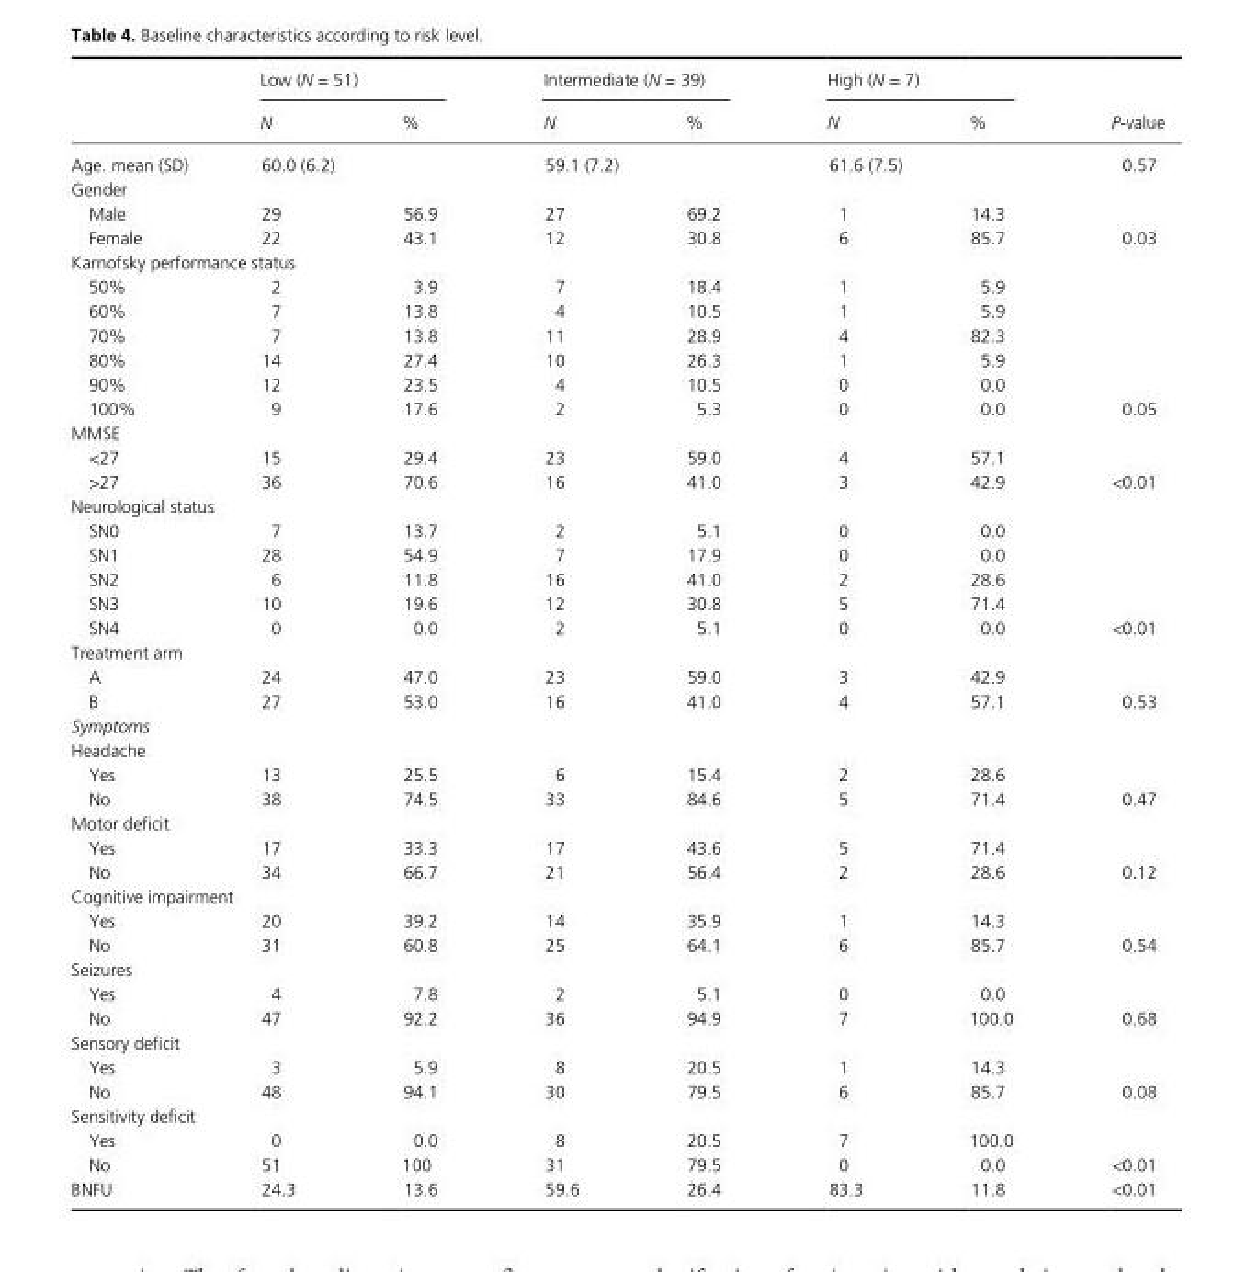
<table><thead><tr><td rowspan="2"></td><td rowspan="2">Low (N = 51) N</td><td rowspan="2">%</td><td colspan="2">Intermediate (N = 39)</td><td rowspan="2">High (N = 7) N</td><td rowspan="2">%</td><td rowspan="2">P- value</td></tr><tr><td>N</td><td>%</td></tr></thead><tbody><tr><td>Age. mean (SD)</td><td>60.0 (6.2)</td><td></td><td>59.1 (7.2)</td><td></td><td>61.6 (7.5)</td><td></td><td>0.57</td></tr><tr><td colspan="8">Gender</td></tr><tr><td>Male</td><td>29</td><td>56.9</td><td>27</td><td>69.2</td><td>1</td><td>14.3</td><td></td></tr><tr><td>Female</td><td>22</td><td>43.1</td><td>12</td><td>30.8</td><td>6</td><td>85.7</td><td>0.03</td></tr><tr><td colspan="8">Karnofsky performance status</td></tr><tr><td>50%</td><td>2</td><td>3.9</td><td>7</td><td>18.4</td><td>1</td><td>5.9</td><td></td></tr><tr><td>60%</td><td>7</td><td>13.8</td><td>4</td><td>10.5</td><td>1</td><td>5.9</td><td></td></tr><tr><td>70%</td><td>7</td><td>13.8</td><td>11</td><td>28.9</td><td>4</td><td>82.3</td><td></td></tr><tr><td>80%</td><td>14</td><td>27.4</td><td>10</td><td>26.3</td><td>1</td><td>5.9</td><td></td></tr><tr><td>90%</td><td>12</td><td>23.5</td><td>4</td><td>10.5</td><td>0</td><td>0.0</td><td></td></tr><tr><td>100%</td><td>9</td><td>17.6</td><td>2</td><td>5.3</td><td>0</td><td>0.0</td><td>0.05</td></tr><tr><td colspan="8">MMSE</td></tr><tr><td>&lt;27</td><td>15</td><td>29.4</td><td>23</td><td>59.0</td><td>4</td><td>57.1</td><td></td></tr><tr><td>&gt;27</td><td>36</td><td>70.6</td><td>16</td><td>41.0</td><td>3</td><td>42.9</td><td>&lt;0.01</td></tr><tr><td colspan="8">Neurological status</td></tr><tr><td>SN0</td><td>7</td><td>13.7</td><td>2</td><td>5.1</td><td>0</td><td>0.0</td><td></td></tr><tr><td>SN1</td><td>28</td><td>54.9</td><td>7</td><td>17.9</td><td>0</td><td>0.0</td><td></td></tr><tr><td>SN2</td><td>6</td><td>11.8</td><td>16</td><td>41.0</td><td>2</td><td>28.6</td><td></td></tr><tr><td>SN3</td><td>10</td><td>19.6</td><td>12</td><td>30.8</td><td>5</td><td>71.4</td><td></td></tr><tr><td>SN4</td><td>0</td><td>0.0</td><td>2</td><td>5.1</td><td>0</td><td>0.0</td><td>&lt;0.01</td></tr><tr><td colspan="8">Treatment arm</td></tr><tr><td>A</td><td>24</td><td>47.0</td><td>23</td><td>59.0</td><td>3</td><td>42.9</td><td></td></tr><tr><td>B</td><td>27</td><td>53.0</td><td>16</td><td>41.0</td><td>4</td><td>57.1</td><td>0.53</td></tr><tr><td colspan="8">Symptoms</td></tr><tr><td colspan="8">Headache</td></tr><tr><td>Yes</td><td>13</td><td>25.5</td><td>6</td><td>15.4</td><td>2</td><td>28.6</td><td></td></tr><tr><td>No</td><td>38</td><td>74.5</td><td>33</td><td>84.6</td><td>5</td><td>71.4</td><td>0.47</td></tr><tr><td colspan="8">Motor deficit</td></tr><tr><td>Yes</td><td>17</td><td>33.3</td><td>17</td><td>43.6</td><td>5</td><td>71.4</td><td></td></tr><tr><td>No</td><td>34</td><td>66.7</td><td>21</td><td>56.4</td><td>2</td><td>28.6</td><td>0.12</td></tr><tr><td colspan="8">Cognitive impairment</td></tr><tr><td>Yes</td><td>20</td><td>39.2</td><td>14</td><td>35.9</td><td>1</td><td>14.3</td><td></td></tr><tr><td>No</td><td>31</td><td>60.8</td><td>25</td><td>64.1</td><td>6</td><td>85.7</td><td>0.54</td></tr><tr><td colspan="8">Seizures</td></tr><tr><td>Yes</td><td>4</td><td>7.8</td><td>2</td><td>5.1</td><td>0</td><td>0.0</td><td></td></tr><tr><td>No</td><td>47</td><td>92.2</td><td>36</td><td>94.9</td><td>7</td><td>100.0</td><td>0.68</td></tr><tr><td colspan="8">Sensory deficit</td></tr><tr><td>Yes</td><td>3</td><td>5.9</td><td>8</td><td>20.5</td><td>1</td><td>14.3</td><td></td></tr><tr><td>No</td><td>48</td><td>94.1</td><td>30</td><td>79.5</td><td>6</td><td>85.7</td><td>0.08</td></tr><tr><td colspan="8">Sensitivity deficit</td></tr><tr><td>Yes</td><td>0</td><td>0.0</td><td>8</td><td>20.5</td><td>7</td><td>100.0</td><td></td></tr><tr><td>No</td><td>51</td><td>100</td><td>31</td><td>79.5</td><td>0</td><td>0.0</td><td>&lt;0.01</td></tr><tr><td>BNFU</td><td>24.3</td><td>13.6</td><td>59.6</td><td>26.4</td><td>83.3</td><td>11.8</td><td>&lt;0.01</td></tr></tbody></table>